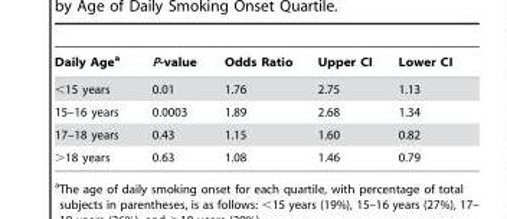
<table><thead><tr><td>Daily Age<sup>a</sup></td><td>P-value</td><td>Odds Ratio</td><td>Upper CI</td><td>Lower CI</td></tr></thead><tbody><tr><td>&lt;15 years</td><td>0.01</td><td>1.76</td><td>2.75</td><td>1.13</td></tr><tr><td>15–16 years</td><td>0.0003</td><td>1.89</td><td>2.68</td><td>1.34</td></tr><tr><td>17–18 years</td><td>0.43</td><td>1.15</td><td>1.60</td><td>0.82</td></tr><tr><td>&gt;18 years</td><td>0.63</td><td>1.08</td><td>1.46</td><td>0.79</td></tr></tbody></table>